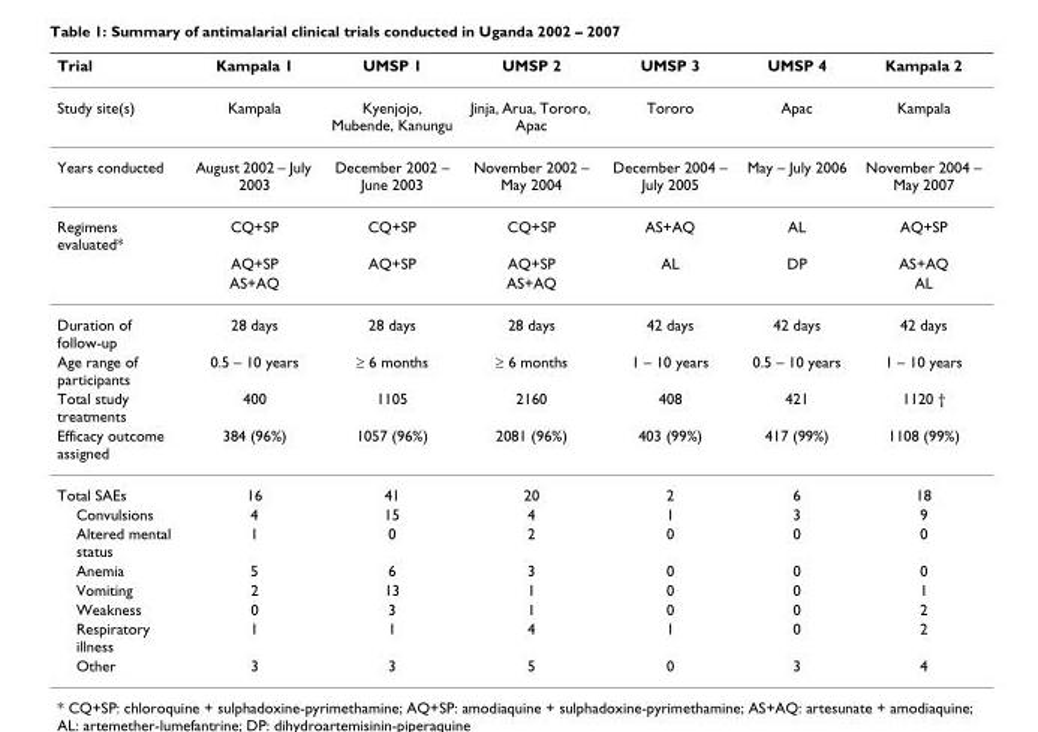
<table><thead><tr><td>Trial</td><td>Kampala 1</td><td>UMSP 1</td><td>UMSP 2</td><td>UMSP 3</td><td>UMSP 4</td><td>Kampala 2</td></tr></thead><tbody><tr><td>Study site(s)</td><td>Kampala</td><td>Kyenjojo, Mubende, Kanungu</td><td>Jinja, Arua, Tororo, Apac</td><td>Tororo</td><td>Apac</td><td>Kampala</td></tr><tr><td>Years conducted</td><td>August 2002 – July 2003</td><td>December 2002 – June 2003</td><td>November 2002 – May 2004</td><td>December 2004 – July 2005</td><td>May – July 2006</td><td>November 2004 – May 2007</td></tr><tr><td rowspan="3">Regimens evaluated*</td><td>CQ+SP</td><td>CQ+SP</td><td>CQ+SP</td><td>AS+AQ</td><td>AL</td><td>AQ+SP</td></tr><tr><td>AQ+SP</td><td>AQ+SP</td><td>AQ+SP</td><td>AL</td><td>DP</td><td>AS+AQ</td></tr><tr><td>AS+AQ</td><td></td><td>AS+AQ</td><td></td><td></td><td>AL</td></tr><tr><td>Duration of follow-up</td><td>28 days</td><td>28 days</td><td>28 days</td><td>42 days</td><td>42 days</td><td>42 days</td></tr><tr><td>Age range of participants</td><td>0.5 – 10 years</td><td>≥ 6 months</td><td>≥ 6 months</td><td>1 – 10 years</td><td>0.5 – 10 years</td><td>1 – 10 years</td></tr><tr><td>Total study treatments</td><td>400</td><td>1105</td><td>2160</td><td>408</td><td>421</td><td>1120 †</td></tr><tr><td>Efficacy outcome assigned</td><td>384 (96%)</td><td>1057 (96%)</td><td>2081 (96%)</td><td>403 (99%)</td><td>417 (99%)</td><td>1108 (99%)</td></tr><tr><td>Total SAEs</td><td>16</td><td>41</td><td>20</td><td>2</td><td>6</td><td>18</td></tr><tr><td>Convulsions</td><td>4</td><td>15</td><td>4</td><td>1</td><td>3</td><td>9</td></tr><tr><td>Altered mental status</td><td>1</td><td>0</td><td>2</td><td>0</td><td>0</td><td>0</td></tr><tr><td>Anemia</td><td>5</td><td>6</td><td>3</td><td>0</td><td>0</td><td>0</td></tr><tr><td>Vomiting</td><td>2</td><td>13</td><td>1</td><td>0</td><td>0</td><td>1</td></tr><tr><td>Weakness</td><td>0</td><td>3</td><td>1</td><td>0</td><td>0</td><td>2</td></tr><tr><td>Respiratory illness</td><td>1</td><td>1</td><td>4</td><td>1</td><td>0</td><td>2</td></tr><tr><td>Other</td><td>3</td><td>3</td><td>5</td><td>0</td><td>3</td><td>4</td></tr></tbody></table>